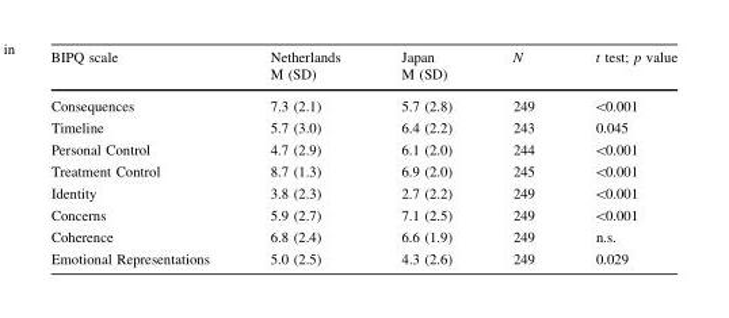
<table><thead><tr><td rowspan="2">BIPQ scale</td><td rowspan="2">Netherlands M (SD)</td><td rowspan="2">Japan M (SD)</td><td rowspan="2">N</td><td rowspan="2">t test; p value</td></tr><tr></tr></thead><tbody><tr><td>Consequences</td><td>7.3 (2.1)</td><td>5.7 (2.8)</td><td>249</td><td>&lt;0.001</td></tr><tr><td>Timeline</td><td>5.7 (3.0)</td><td>6.4 (2.2)</td><td>243</td><td>0.045</td></tr><tr><td>Personal Control</td><td>4.7 (2.9)</td><td>6.1 (2.0)</td><td>244</td><td>&lt;0.001</td></tr><tr><td>Treatment Control</td><td>8.7 (1.3)</td><td>6.9 (2.0)</td><td>245</td><td>&lt;0.001</td></tr><tr><td>Identity</td><td>3.8 (2.3)</td><td>2.7 (2.2)</td><td>249</td><td>&lt;0.001</td></tr><tr><td>Concerns</td><td>5.9 (2.7)</td><td>7.1 (2.5)</td><td>249</td><td>&lt;0.001</td></tr><tr><td>Coherence</td><td>6.8 (2.4)</td><td>6.6 (1.9)</td><td>249</td><td>n.s.</td></tr><tr><td>Emotional Representations</td><td>5.0 (2.5)</td><td>4.3 (2.6)</td><td>249</td><td>0.029</td></tr></tbody></table>